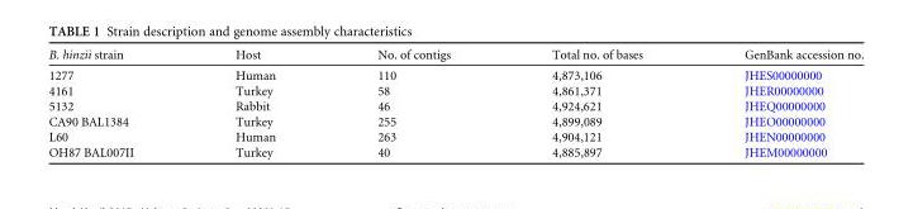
<table><thead><tr><td>B. hinzii strain</td><td>Host</td><td>No. of contigs</td><td>Total no. of bases</td><td>GenBank accession no.</td></tr></thead><tbody><tr><td>1277</td><td>Human</td><td>110</td><td>4,873,106</td><td>JHES00000000</td></tr><tr><td>4161</td><td>Turkey</td><td>58</td><td>4,861,371</td><td>JHER00000000</td></tr><tr><td>5132</td><td>Rabbit</td><td>46</td><td>4,924,621</td><td>JHEQ00000000</td></tr><tr><td>CA90 BAL1384</td><td>Turkey</td><td>255</td><td>4,899,089</td><td>JHEO00000000</td></tr><tr><td>L60</td><td>Human</td><td>263</td><td>4,904,121</td><td>JHEN00000000</td></tr><tr><td>OH87 BAL007II</td><td>Turkey</td><td>40</td><td>4,885,897</td><td>JHEM00000000</td></tr></tbody></table>